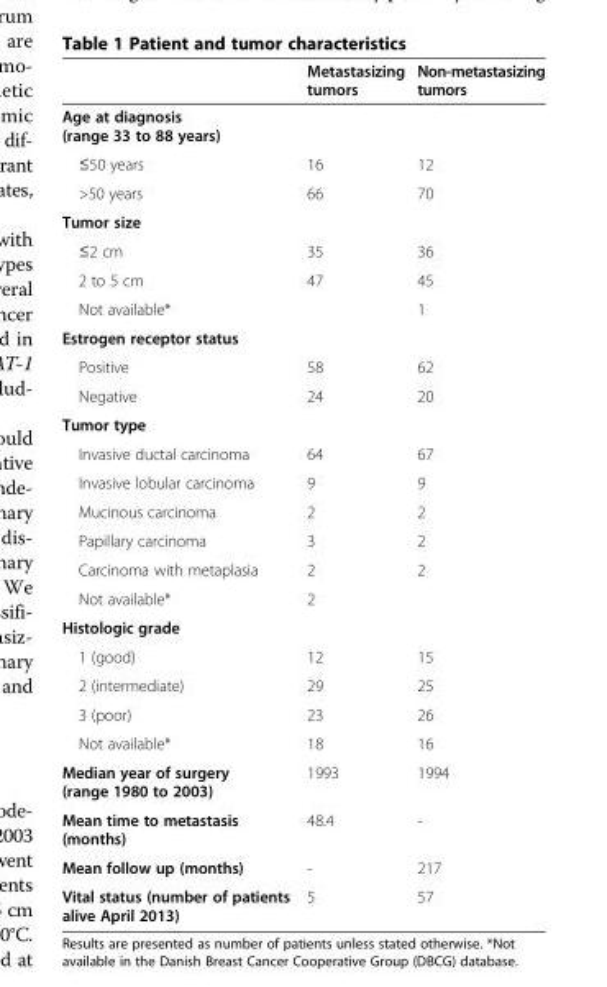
<table><thead><tr><td></td><td>Metastasizing tumors</td><td>Non-metastasizing tumors</td></tr></thead><tbody><tr><td colspan="3">Age at diagnosis (range 33 to 88 years)</td></tr><tr><td>≤50 years</td><td>16</td><td>12</td></tr><tr><td>&gt;50 years</td><td>66</td><td>70</td></tr><tr><td colspan="3">Tumor size</td></tr><tr><td>≤2 cm</td><td>35</td><td>36</td></tr><tr><td>2 to 5 cm</td><td>47</td><td>45</td></tr><tr><td>Not available*</td><td></td><td>1</td></tr><tr><td colspan="3">Estrogen receptor status</td></tr><tr><td>Positive</td><td>58</td><td>62</td></tr><tr><td>Negative</td><td>24</td><td>20</td></tr><tr><td colspan="3">Tumor type</td></tr><tr><td>Invasive ductal carcinoma</td><td>64</td><td>67</td></tr><tr><td>Invasive lobular carcinoma</td><td>9</td><td>9</td></tr><tr><td>Mucinous carcinoma</td><td>2</td><td>2</td></tr><tr><td>Papillary carcinoma</td><td>3</td><td>2</td></tr><tr><td>Carcinoma with metaplasia</td><td>2</td><td>2</td></tr><tr><td>Not available*</td><td>2</td><td></td></tr><tr><td colspan="3">Histologic grade</td></tr><tr><td>1 (good)</td><td>12</td><td>15</td></tr><tr><td>2 (intermediate)</td><td>29</td><td>25</td></tr><tr><td>3 (poor)</td><td>23</td><td>26</td></tr><tr><td>Not available*</td><td>18</td><td>16</td></tr><tr><td>Median year of surgery (range 1980 to 2003)</td><td>1993</td><td>1994</td></tr><tr><td>Mean time to metastasis (months)</td><td>48.4</td><td>-</td></tr><tr><td>Mean follow up (months)</td><td>-</td><td>217</td></tr><tr><td>Vital status (number of patients alive April 2013)</td><td>5</td><td>57</td></tr></tbody></table>